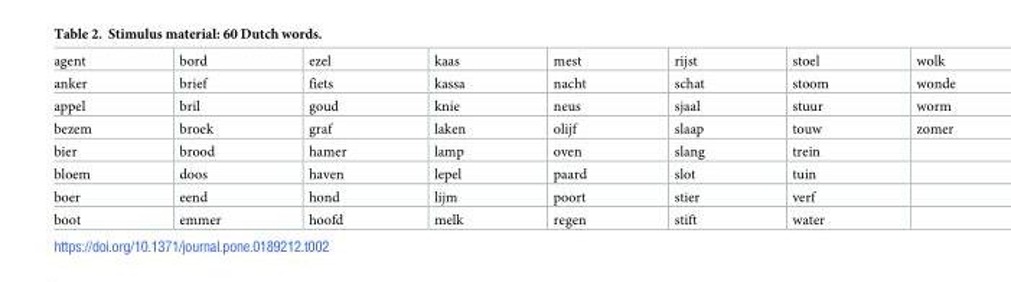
<table><tbody><tr><td>agent</td><td>bord</td><td>ezel</td><td>kaas</td><td>mest</td><td>rijst</td><td>stoel</td><td>wolk</td></tr><tr><td>anker</td><td>brief</td><td>fiets</td><td>kassa</td><td>nacht</td><td>schat</td><td>stoom</td><td>wonde</td></tr><tr><td>appel</td><td>bril</td><td>goud</td><td>knie</td><td>neus</td><td>sjaal</td><td>stuur</td><td>worm</td></tr><tr><td>bezem</td><td>broek</td><td>graf</td><td>laken</td><td>olijf</td><td>slaap</td><td>touw</td><td>zomer</td></tr><tr><td>bier</td><td>brood</td><td>hamer</td><td>lamp</td><td>oven</td><td>slang</td><td>trein</td><td></td></tr><tr><td>bloem</td><td>doos</td><td>haven</td><td>lepel</td><td>paard</td><td>slot</td><td>tuin</td><td></td></tr><tr><td>boer</td><td>eend</td><td>hond</td><td>lijm</td><td>poort</td><td>stier</td><td>verf</td><td></td></tr><tr><td>boot</td><td>emmer</td><td>hoofd</td><td>melk</td><td>regen</td><td>stift</td><td>water</td><td></td></tr></tbody></table>